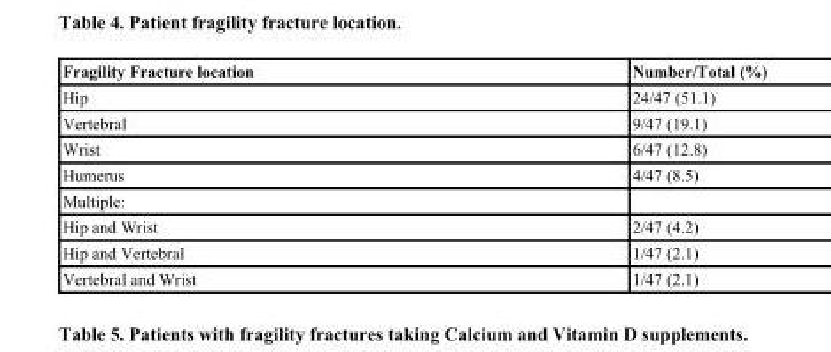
<table><thead><tr><td>Fragility Fracture location</td><td>Number/Total (%)</td></tr></thead><tbody><tr><td>Hip</td><td>24/47 (51.1)</td></tr><tr><td>Vertebral</td><td>9/47 (19.1)</td></tr><tr><td>Wrist</td><td>6/47 (12.8)</td></tr><tr><td>Humerus</td><td>4/47 (8.5)</td></tr><tr><td colspan="2">Multiple:</td></tr><tr><td>Hip and Wrist</td><td>2/47 (4.2)</td></tr><tr><td>Hip and Vertebral</td><td>1/47 (2.1)</td></tr><tr><td>Vertebral and Wrist</td><td>1/47 (2.1)</td></tr></tbody></table>